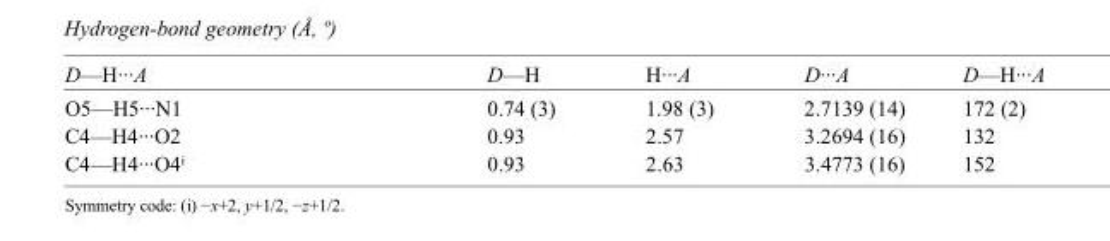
<table><tbody><tr><td>D—H···A</td><td>D—H</td><td>H···A</td><td>D···A</td><td>D—H···A</td></tr><tr><td>O5—H5···N1</td><td>0.74 (3)</td><td>1.98 (3)</td><td>2.7139 (14)</td><td>172 (2)</td></tr><tr><td>C4—H4···O2</td><td>0.93</td><td>2.57</td><td>3.2694 (16)</td><td>132</td></tr><tr><td>C4—H4···O4<sup>i</sup></td><td>0.93</td><td>2.63</td><td>3.4773 (16)</td><td>152</td></tr></tbody></table>